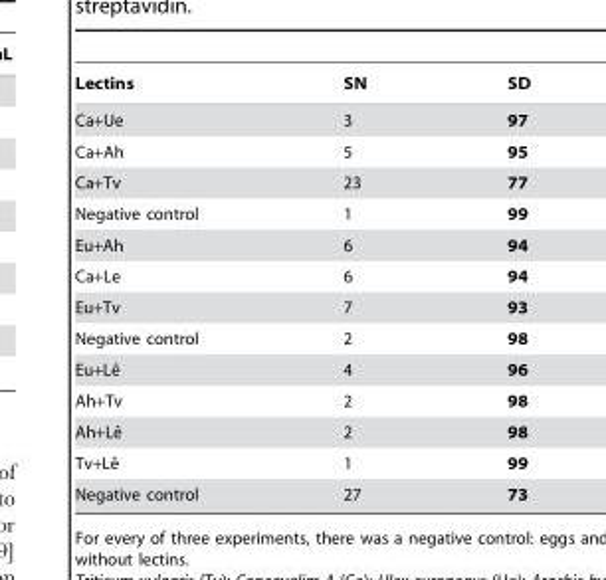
<table><thead><tr><td>Lectins</td><td>SN</td><td>SD</td></tr></thead><tbody><tr><td>Ca+Ue</td><td>3</td><td>97</td></tr><tr><td>Ca+Ah</td><td>5</td><td>95</td></tr><tr><td>Ca+Tv</td><td>23</td><td>77</td></tr><tr><td>Negative control</td><td>1</td><td>99</td></tr><tr><td>Eu+Ah</td><td>6</td><td>94</td></tr><tr><td>Ca+Le</td><td>6</td><td>94</td></tr><tr><td>Eu+Tv</td><td>7</td><td>93</td></tr><tr><td>Negative control</td><td>2</td><td>98</td></tr><tr><td>Eu+Leˆ</td><td>4</td><td>96</td></tr><tr><td>Ah+Tv</td><td>2</td><td>98</td></tr><tr><td>Ah+Leˆ</td><td>2</td><td>98</td></tr><tr><td>Tv+Leˆ</td><td>1</td><td>99</td></tr><tr><td>Negative control</td><td>27</td><td>73</td></tr></tbody></table>